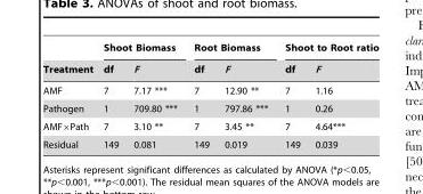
<table><thead><tr><td rowspan="2">Treatment</td><td colspan="2">Shoot Biomass</td><td colspan="2">Root Biomass</td><td colspan="2">Shoot to Root ratio</td></tr><tr><td>df</td><td>F</td><td>df</td><td>F</td><td>df</td><td>F</td></tr></thead><tbody><tr><td>AMF</td><td>7</td><td>7.17 ***</td><td>7</td><td>12.90 **</td><td>7</td><td>1.16</td></tr><tr><td>Pathogen</td><td>1</td><td>709.80 ***</td><td>1</td><td>797.86 ***</td><td>1</td><td>0.26</td></tr><tr><td>AMF×Path</td><td>7</td><td>3.10 **</td><td>7</td><td>3.45 **</td><td>7</td><td>4.64***</td></tr><tr><td>Residual</td><td>149</td><td>0.081</td><td>149</td><td>0.019</td><td>149</td><td>0.039</td></tr></tbody></table>